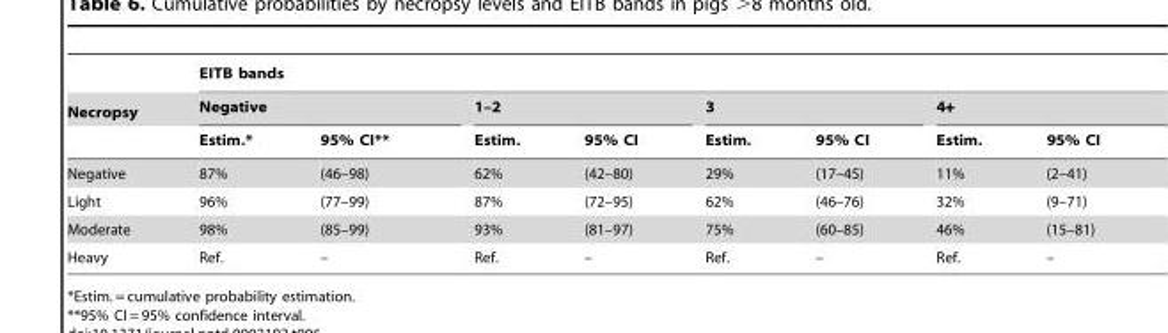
<table><thead><tr><td rowspan="3">Necropsy</td><td colspan="8">EITB bands</td></tr><tr><td colspan="2">Negative</td><td colspan="2">1–2</td><td colspan="2">3</td><td colspan="2">4+</td></tr><tr><td>Estim.*</td><td>95% CI**</td><td>Estim.</td><td>95% CI</td><td>Estim.</td><td>95% CI</td><td>Estim.</td><td>95% CI</td></tr></thead><tbody><tr><td>Negative</td><td>87%</td><td>(46–98)</td><td>62%</td><td>(42–80)</td><td>29%</td><td>(17–45)</td><td>11%</td><td>(2–41)</td></tr><tr><td>Light</td><td>96%</td><td>(77–99)</td><td>87%</td><td>(72–95)</td><td>62%</td><td>(46–76)</td><td>32%</td><td>(9–71)</td></tr><tr><td>Moderate</td><td>98%</td><td>(85–99)</td><td>93%</td><td>(81–97)</td><td>75%</td><td>(60–85)</td><td>46%</td><td>(15–81)</td></tr><tr><td>Heavy</td><td>Ref.</td><td>–</td><td>Ref.</td><td>–</td><td>Ref.</td><td>–</td><td>Ref.</td><td>–</td></tr></tbody></table>